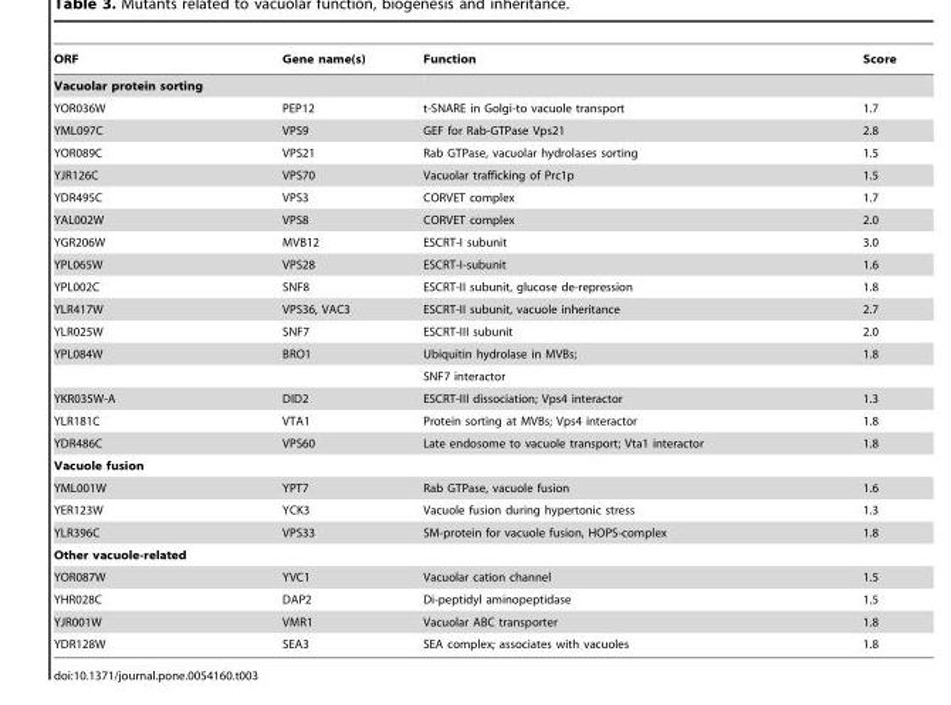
<table><thead><tr><td>ORF</td><td>Gene name(s)</td><td>Function</td><td>Score</td></tr></thead><tbody><tr><td colspan="4">Vacuolar protein sorting</td></tr><tr><td>YOR036W</td><td>PEP12</td><td>t-SNARE in Golgi-to vacuole transport</td><td>1.7</td></tr><tr><td>YML097C</td><td>VPS9</td><td>GEF for Rab-GTPase Vps21</td><td>2.8</td></tr><tr><td>YOR089C</td><td>VPS21</td><td>Rab GTPase, vacuolar hydrolases sorting</td><td>1.5</td></tr><tr><td>YJR126C</td><td>VPS70</td><td>Vacuolar trafficking of Prc1p</td><td>1.5</td></tr><tr><td>YDR495C</td><td>VPS3</td><td>CORVET complex</td><td>1.7</td></tr><tr><td>YAL002W</td><td>VPS8</td><td>CORVET complex</td><td>2.0</td></tr><tr><td>YGR206W</td><td>MVB12</td><td>ESCRT-I subunit</td><td>3.0</td></tr><tr><td>YPL065W</td><td>VPS28</td><td>ESCRT-I-subunit</td><td>1.6</td></tr><tr><td>YPL002C</td><td>SNF8</td><td>ESCRT-II subunit, glucose de-repression</td><td>1.8</td></tr><tr><td>YLR417W</td><td>VPS36, VAC3</td><td>ESCRT-II subunit, vacuole inheritance</td><td>2.7</td></tr><tr><td>YLR025W</td><td>SNF7</td><td>ESCRT-III subunit</td><td>2.0</td></tr><tr><td rowspan="2">YPL084W</td><td>BRO1</td><td>Ubiquitin hydrolase in MVBs;</td><td>1.8</td></tr><tr><td></td><td>SNF7 interactor</td><td></td></tr><tr><td>YKR035W-A</td><td>DID2</td><td>ESCRT-III dissociation; Vps4 interactor</td><td>1.3</td></tr><tr><td>YLR181C</td><td>VTA1</td><td>Protein sorting at MVBs; Vps4 interactor</td><td>1.8</td></tr><tr><td>YDR486C</td><td>VPS60</td><td>Late endosome to vacuole transport; Vta1 interactor</td><td>1.8</td></tr><tr><td colspan="4">Vacuole fusion</td></tr><tr><td>YML001W</td><td>YPT7</td><td>Rab GTPase, vacuole fusion</td><td>1.6</td></tr><tr><td>YER123W</td><td>YCK3</td><td>Vacuole fusion during hypertonic stress</td><td>1.3</td></tr><tr><td>YLR396C</td><td>VPS33</td><td>SM-protein for vacuole fusion, HOPS-complex</td><td>1.8</td></tr><tr><td colspan="4">Other vacuole-related</td></tr><tr><td>YOR087W</td><td>YVC1</td><td>Vacuolar cation channel</td><td>1.5</td></tr><tr><td>YHR028C</td><td>DAP2</td><td>Di-peptidyl aminopeptidase</td><td>1.5</td></tr><tr><td>YJR001W</td><td>VMR1</td><td>Vacuolar ABC transporter</td><td>1.8</td></tr><tr><td>YDR128W</td><td>SEA3</td><td>SEA complex; associates with vacuoles</td><td>1.8</td></tr></tbody></table>